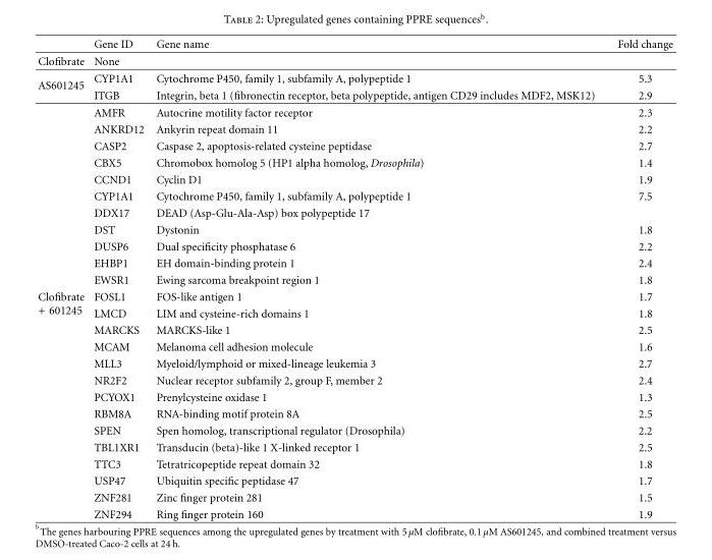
<table><thead><tr><td></td><td>Gene ID</td><td>Gene name</td><td>Fold change</td></tr></thead><tbody><tr><td>Clofibrate</td><td>None</td><td></td><td></td></tr><tr><td rowspan="2">AS601245</td><td>CYP1A1</td><td>Cytochrome P450, family 1, subfamily A, polypeptide 1</td><td>5.3</td></tr><tr><td>ITGB</td><td>Integrin, beta 1 (fibronectin receptor, beta polypeptide, antigen CD29 includes MDF2, MSK12)</td><td>2.9</td></tr><tr><td rowspan="25">Clofibrate + 601245</td><td>AMFR</td><td>Autocrine motility factor receptor</td><td>2.3</td></tr><tr><td>ANKRD12</td><td>Ankyrin repeat domain 11</td><td>2.2</td></tr><tr><td>CASP2</td><td>Caspase 2, apoptosis-related cysteine peptidase</td><td>2.7</td></tr><tr><td>CBX5</td><td>Chromobox homolog 5 (HP1 alpha homolog, Drosophila)</td><td>1.4</td></tr><tr><td>CCND1</td><td>Cyclin D1</td><td>1.9</td></tr><tr><td>CYP1A1</td><td>Cytochrome P450, family 1, subfamily A, polypeptide 1</td><td>7.5</td></tr><tr><td>DDX17</td><td>DEAD (Asp-Glu-Ala-Asp) box polypeptide 17</td><td></td></tr><tr><td>DST</td><td>Dystonin</td><td>1.8</td></tr><tr><td>DUSP6</td><td>Dual specificity phosphatase 6</td><td>2.2</td></tr><tr><td>EHBP1</td><td>EH domain-binding protein 1</td><td>2.4</td></tr><tr><td>EWSR1</td><td>Ewing sarcoma breakpoint region 1</td><td>1.8</td></tr><tr><td>FOSL1</td><td>FOS-like antigen 1</td><td>1.7</td></tr><tr><td>LMCD</td><td>LIM and cysteine-rich domains 1</td><td>1.8</td></tr><tr><td>MARCKS</td><td>MARCKS-like 1</td><td>2.5</td></tr><tr><td>MCAM</td><td>Melanoma cell adhesion molecule</td><td>1.6</td></tr><tr><td>MLL3</td><td>Myeloid/lymphoid or mixed-lineage leukemia 3</td><td>2.7</td></tr><tr><td>NR2F2</td><td>Nuclear receptor subfamily 2, group F, member 2</td><td>2.4</td></tr><tr><td>PCYOX1</td><td>Prenylcysteine oxidase 1</td><td>1.3</td></tr><tr><td>RBM8A</td><td>RNA-binding motif protein 8A</td><td>2.5</td></tr><tr><td>SPEN</td><td>Spen homolog, transcriptional regulator (Drosophila)</td><td>2.2</td></tr><tr><td>TBL1XR1</td><td>Transducin (beta)-like 1 X-linked receptor 1</td><td>2.5</td></tr><tr><td>TTC3</td><td>Tetratricopeptide repeat domain 32</td><td>1.8</td></tr><tr><td>USP47</td><td>Ubiquitin specific peptidase 47</td><td>1.7</td></tr><tr><td>ZNF281</td><td>Zinc finger protein 281</td><td>1.5</td></tr><tr><td>ZNF294</td><td>Ring finger protein 160</td><td>1.9</td></tr></tbody></table>